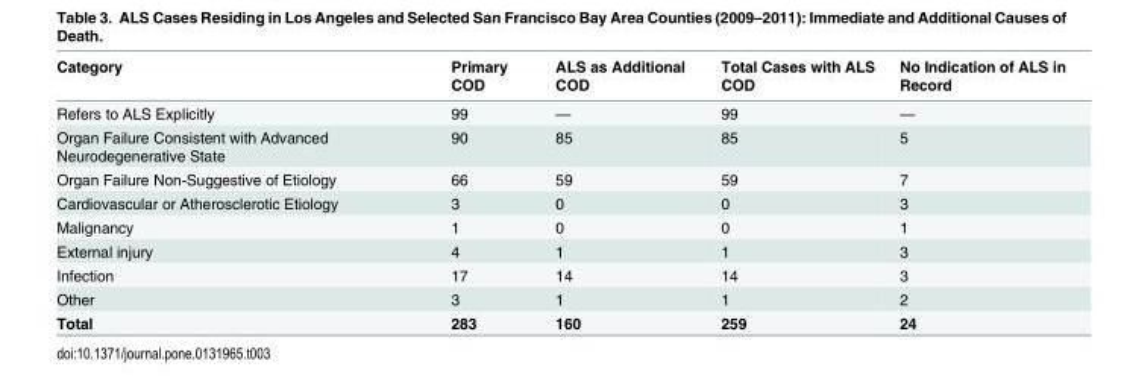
<table><thead><tr><td>Category</td><td>Primary COD</td><td>ALS as Additional COD</td><td>Total Cases with ALS COD</td><td>No Indication of ALS in Record</td></tr></thead><tbody><tr><td>Refers to ALS Explicitly</td><td>99</td><td>—</td><td>99</td><td>—</td></tr><tr><td>Organ Failure Consistent with Advanced Neurodegenerative State</td><td>90</td><td>85</td><td>85</td><td>5</td></tr><tr><td>Organ Failure Non-Suggestive of Etiology</td><td>66</td><td>59</td><td>59</td><td>7</td></tr><tr><td>Cardiovascular or Atherosclerotic Etiology</td><td>3</td><td>0</td><td>0</td><td>3</td></tr><tr><td>Malignancy</td><td>1</td><td>0</td><td>0</td><td>1</td></tr><tr><td>External injury</td><td>4</td><td>1</td><td>1</td><td>3</td></tr><tr><td>Infection</td><td>17</td><td>14</td><td>14</td><td>3</td></tr><tr><td>Other</td><td>3</td><td>1</td><td>1</td><td>2</td></tr><tr><td>Total</td><td>283</td><td>160</td><td>259</td><td>24</td></tr></tbody></table>